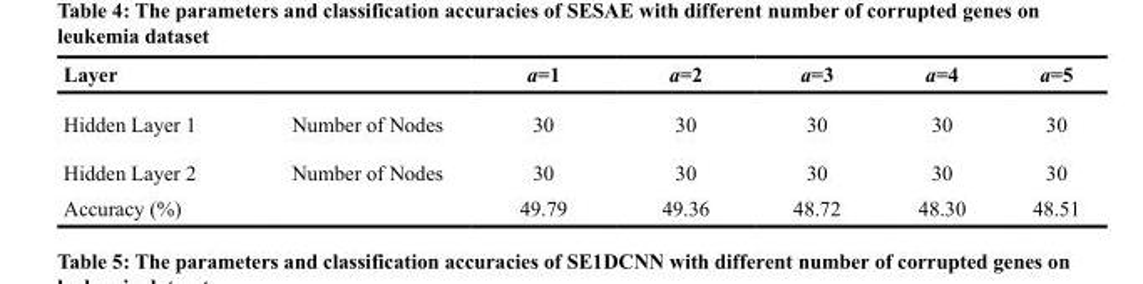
<table><thead><tr><td>Layer</td><td></td><td>a=1</td><td>a=2</td><td>a=3</td><td>a=4</td><td>a=5</td></tr></thead><tbody><tr><td>Hidden Layer 1</td><td>Number of Nodes</td><td>30</td><td>30</td><td>30</td><td>30</td><td>30</td></tr><tr><td>Hidden Layer 2</td><td>Number of Nodes</td><td>30</td><td>30</td><td>30</td><td>30</td><td>30</td></tr><tr><td colspan="2">Accuracy (%)</td><td>49.79</td><td>49.36</td><td>48.72</td><td>48.30</td><td>48.51</td></tr></tbody></table>